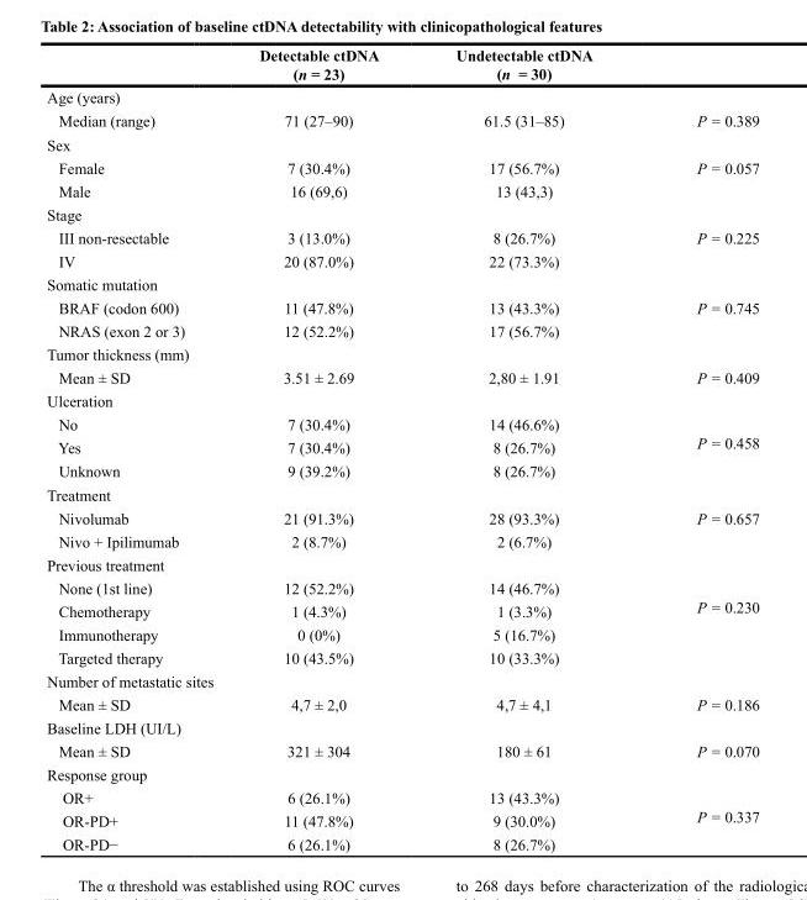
<table><thead><tr><td></td><td>Detectable ctDNA (n = 23)</td><td>Undetectable ctDNA (n = 30)</td><td></td></tr></thead><tbody><tr><td colspan="4">Age (years)</td></tr><tr><td>Median (range)</td><td>71 (27–90)</td><td>61.5 (31–85)</td><td>P = 0.389</td></tr><tr><td colspan="4">Sex</td></tr><tr><td>Female</td><td>7 (30.4%)</td><td>17 (56.7%)</td><td rowspan="2">P = 0.057</td></tr><tr><td>Male</td><td>16 (69,6)</td><td>13 (43,3)</td></tr><tr><td colspan="4">Stage</td></tr><tr><td>III non-resectable</td><td>3 (13.0%)</td><td>8 (26.7%)</td><td rowspan="2">P = 0.225</td></tr><tr><td>IV</td><td>20 (87.0%)</td><td>22 (73.3%)</td></tr><tr><td colspan="4">Somatic mutation</td></tr><tr><td>BRAF (codon 600)</td><td>11 (47.8%)</td><td>13 (43.3%)</td><td rowspan="2">P = 0.745</td></tr><tr><td>NRAS (exon 2 or 3)</td><td>12 (52.2%)</td><td>17 (56.7%)</td></tr><tr><td colspan="4">Tumor thickness (mm)</td></tr><tr><td>Mean ± SD</td><td>3.51 ± 2.69</td><td>2,80 ± 1.91</td><td>P = 0.409</td></tr><tr><td colspan="4">Ulceration</td></tr><tr><td>No</td><td>7 (30.4%)</td><td>14 (46.6%)</td><td rowspan="3">P = 0.458</td></tr><tr><td>Yes</td><td>7 (30.4%)</td><td>8 (26.7%)</td></tr><tr><td>Unknown</td><td>9 (39.2%)</td><td>8 (26.7%)</td></tr><tr><td colspan="4">Treatment</td></tr><tr><td>Nivolumab</td><td>21 (91.3%)</td><td>28 (93.3%)</td><td rowspan="2">P = 0.657</td></tr><tr><td>Nivo + Ipilimumab</td><td>2 (8.7%)</td><td>2 (6.7%)</td></tr><tr><td colspan="4">Previous treatment</td></tr><tr><td>None (1st line)</td><td>12 (52.2%)</td><td>14 (46.7%)</td><td rowspan="4">P = 0.230</td></tr><tr><td>Chemotherapy</td><td>1 (4.3%)</td><td>1 (3.3%)</td></tr><tr><td>Immunotherapy</td><td>0 (0%)</td><td>5 (16.7%)</td></tr><tr><td>Targeted therapy</td><td>10 (43.5%)</td><td>10 (33.3%)</td></tr><tr><td colspan="4">Number of metastatic sites</td></tr><tr><td>Mean ± SD</td><td>4,7 ± 2,0</td><td>4,7 ± 4,1</td><td>P = 0.186</td></tr><tr><td colspan="4">Baseline LDH (UI/L)</td></tr><tr><td>Mean ± SD</td><td>321 ± 304</td><td>180 ± 61</td><td>P = 0.070</td></tr><tr><td colspan="4">Response group</td></tr><tr><td>OR+</td><td>6 (26.1%)</td><td>13 (43.3%)</td><td rowspan="3">P = 0.337</td></tr><tr><td>OR-PD+</td><td>11 (47.8%)</td><td>9 (30.0%)</td></tr><tr><td>OR-PD−</td><td>6 (26.1%)</td><td>8 (26.7%)</td></tr></tbody></table>